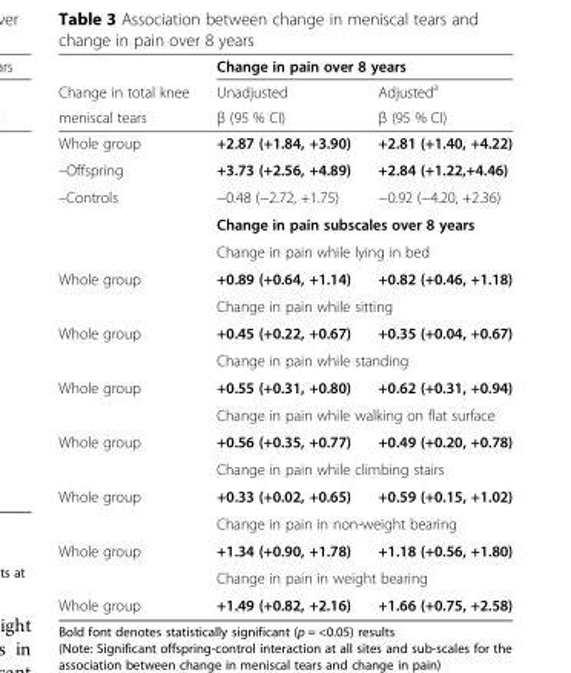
<table><thead><tr><td rowspan="3">Change in total knee meniscal tears</td><td colspan="2">Change in pain over 8 years</td></tr><tr><td rowspan="2">Unadjusted β (95 % CI)</td><td rowspan="2">Adjusted<sup>a</sup> β (95 % CI)</td></tr><tr></tr></thead><tbody><tr><td>Whole group</td><td>+2.87 (+1.84, +3.90)</td><td>+2.81 (+1.40, +4.22)</td></tr><tr><td>–Offspring</td><td>+3.73 (+2.56, +4.89)</td><td>+2.84 (+1.22,+4.46)</td></tr><tr><td rowspan="3">–Controls</td><td>−0.48 (−2.72, +1.75)</td><td>−0.92 (−4.20, +2.36)</td></tr><tr><td colspan="2">Change in pain subscales over 8 years</td></tr><tr><td colspan="2">Change in pain while lying in bed</td></tr><tr><td rowspan="2">Whole group</td><td>+0.89 (+0.64, +1.14)</td><td>+0.82 (+0.46, +1.18)</td></tr><tr><td colspan="2">Change in pain while sitting</td></tr><tr><td rowspan="2">Whole group</td><td>+0.45 (+0.22, +0.67)</td><td>+0.35 (+0.04, +0.67)</td></tr><tr><td colspan="2">Change in pain while standing</td></tr><tr><td rowspan="2">Whole group</td><td>+0.55 (+0.31, +0.80)</td><td>+0.62 (+0.31, +0.94)</td></tr><tr><td colspan="2">Change in pain while walking on flat surface</td></tr><tr><td rowspan="2">Whole group</td><td>+0.56 (+0.35, +0.77)</td><td>+0.49 (+0.20, +0.78)</td></tr><tr><td colspan="2">Change in pain while climbing stairs</td></tr><tr><td rowspan="2">Whole group</td><td>+0.33 (+0.02, +0.65)</td><td>+0.59 (+0.15, +1.02)</td></tr><tr><td colspan="2">Change in pain in non-weight bearing</td></tr><tr><td rowspan="2">Whole group</td><td>+1.34 (+0.90, +1.78)</td><td>+1.18 (+0.56, +1.80)</td></tr><tr><td colspan="2">Change in pain in weight bearing</td></tr><tr><td>Whole group</td><td>+1.49 (+0.82, +2.16)</td><td>+1.66 (+0.75, +2.58)</td></tr></tbody></table>